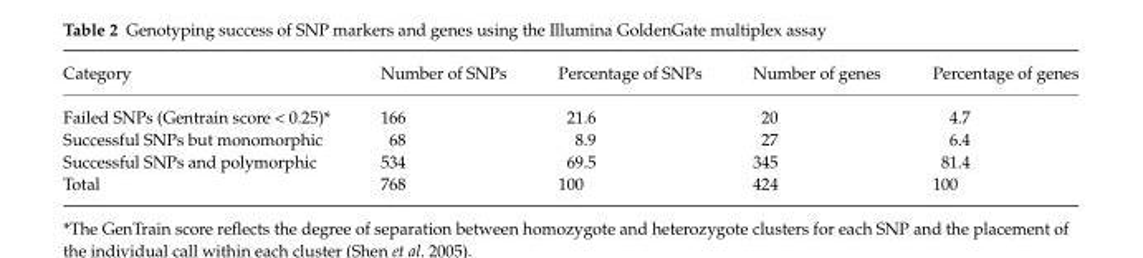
<table><thead><tr><td>Category</td><td>Number of SNPs</td><td>Percentage of SNPs</td><td>Number of genes</td><td>Percentage of genes</td></tr></thead><tbody><tr><td>Failed SNPs (Gentrain score &lt; 0.25)*</td><td>166</td><td>21.6</td><td>20</td><td>4.7</td></tr><tr><td>Successful SNPs but monomorphic</td><td>68</td><td>8.9</td><td>27</td><td>6.4</td></tr><tr><td>Successful SNPs and polymorphic</td><td>534</td><td>69.5</td><td>345</td><td>81.4</td></tr><tr><td>Total</td><td>768</td><td>100</td><td>424</td><td>100</td></tr></tbody></table>